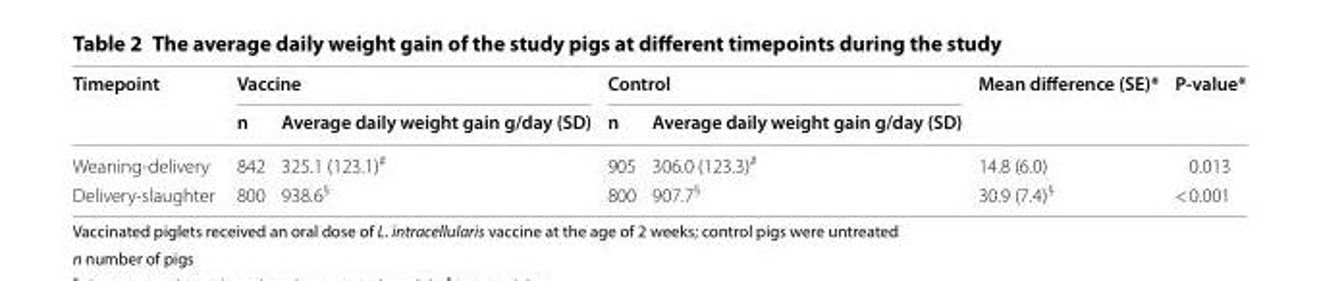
<table><thead><tr><td rowspan="2">Timepoint</td><td colspan="2">Vaccine</td><td colspan="2">Control</td><td rowspan="2">Mean difference (SE)*</td><td rowspan="2">P-value*</td></tr><tr><td>n</td><td>Average daily weight gain g/day (SD)</td><td>n</td><td>Average daily weight gain g/day (SD)</td></tr></thead><tbody><tr><td>Weaning-delivery</td><td>842</td><td>325.1 (123.1)<sup>#</sup></td><td>905</td><td>306.0 (123.3)<sup>#</sup></td><td>14.8 (6.0)</td><td>0.013</td></tr><tr><td>Delivery-slaughter</td><td>800</td><td>938.6<sup>§</sup></td><td>800</td><td>907.7<sup>§</sup></td><td>30.9 (7.4)<sup>§</sup></td><td>&lt; 0.001</td></tr></tbody></table>